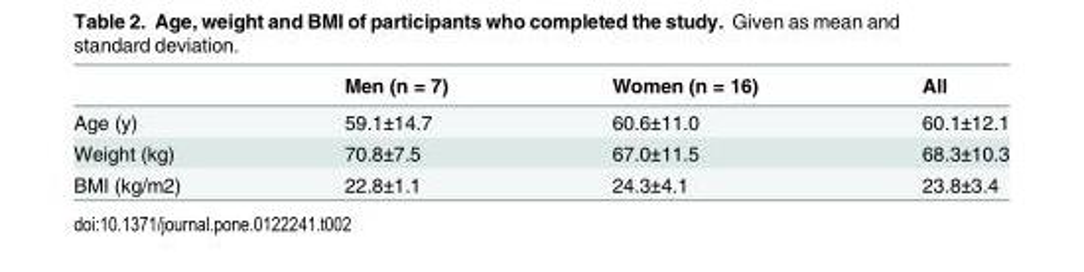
<table><thead><tr><td></td><td>Men (n = 7)</td><td>Women (n = 16)</td><td>All</td></tr></thead><tbody><tr><td>Age (y)</td><td>59.1±14.7</td><td>60.6±11.0</td><td>60.1±12.1</td></tr><tr><td>Weight (kg)</td><td>70.8±7.5</td><td>67.0±11.5</td><td>68.3±10.3</td></tr><tr><td>BMI (kg/m2)</td><td>22.8±1.1</td><td>24.3±4.1</td><td>23.8±3.4</td></tr></tbody></table>